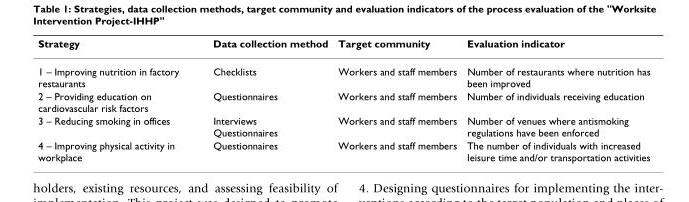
<table><thead><tr><td>Strategy</td><td>Data collection method</td><td>Target community</td><td>Evaluation indicator</td></tr></thead><tbody><tr><td>1 – Improving nutrition in factory restaurants</td><td>Checklists</td><td>Workers and staff members</td><td>Number of restaurants where nutrition has been improved</td></tr><tr><td>2 – Providing education on cardiovascular risk factors</td><td>Questionnaires</td><td>Workers and staff members</td><td>Number of individuals receiving education</td></tr><tr><td>3 – Reducing smoking in offices</td><td>Interviews Questionnaires</td><td>Workers and staff members</td><td>Number of venues where antismoking regulations have been enforced</td></tr><tr><td>4 – Improving physical activity in workplace</td><td>Questionnaires</td><td>Workers and staff members</td><td>The number of individuals with increased leisure time and/or transportation activities</td></tr></tbody></table>